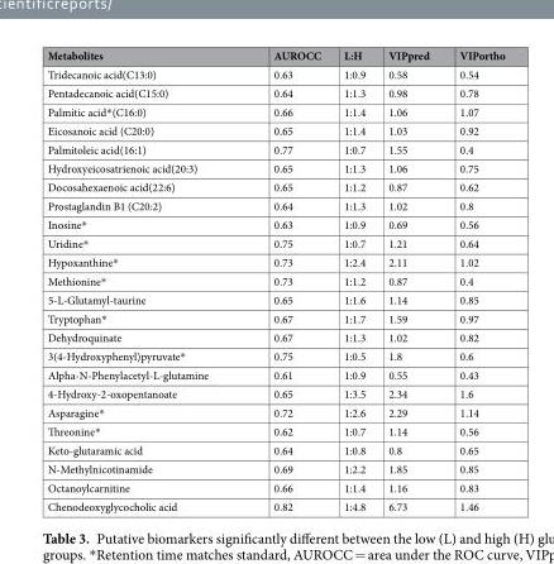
<table><thead><tr><td>Metabolites</td><td>AUROCC</td><td>L:H</td><td>VIPpred</td><td>VIPortho</td></tr></thead><tbody><tr><td>Tridecanoic acid(C13:0)</td><td>0.63</td><td>1:0.9</td><td>0.58</td><td>0.54</td></tr><tr><td>Pentadecanoic acid(C15:0)</td><td>0.64</td><td>1:1.3</td><td>0.98</td><td>0.78</td></tr><tr><td>Palmitic acid*(C16:0)</td><td>0.66</td><td>1:1.4</td><td>1.06</td><td>1.07</td></tr><tr><td>Eicosanoic acid (C20:0)</td><td>0.65</td><td>1:1.4</td><td>1.03</td><td>0.92</td></tr><tr><td>Palmitoleic acid(16:1)</td><td>0.77</td><td>1:0.7</td><td>1.55</td><td>0.4</td></tr><tr><td>Hydroxyeicosatrienoic acid(20:3)</td><td>0.65</td><td>1:1.3</td><td>1.06</td><td>0.75</td></tr><tr><td>Docosahexaenoic acid(22:6)</td><td>0.65</td><td>1:1.2</td><td>0.87</td><td>0.62</td></tr><tr><td>Prostaglandin B1 (C20:2)</td><td>0.64</td><td>1:1.3</td><td>1.02</td><td>0.8</td></tr><tr><td>Inosine*</td><td>0.63</td><td>1:0.9</td><td>0.69</td><td>0.56</td></tr><tr><td>Uridine*</td><td>0.75</td><td>1:0.7</td><td>1.21</td><td>0.64</td></tr><tr><td>Hypoxanthine*</td><td>0.73</td><td>1:2.4</td><td>2.11</td><td>1.02</td></tr><tr><td>Methionine*</td><td>0.73</td><td>1:1.2</td><td>0.87</td><td>0.4</td></tr><tr><td>5-L-Glutamyl-taurine</td><td>0.65</td><td>1:1.6</td><td>1.14</td><td>0.85</td></tr><tr><td>Tryptophan*</td><td>0.67</td><td>1:1.7</td><td>1.59</td><td>0.97</td></tr><tr><td>Dehydroquinate</td><td>0.67</td><td>1:1.3</td><td>1.02</td><td>0.82</td></tr><tr><td>3(4-Hydroxyphenyl)pyruvate*</td><td>0.75</td><td>1:0.5</td><td>1.8</td><td>0.6</td></tr><tr><td>Alpha-N-Phenylacetyl-L-glutamine</td><td>0.61</td><td>1:0.9</td><td>0.55</td><td>0.43</td></tr><tr><td>4-Hydroxy-2-oxopentanoate</td><td>0.65</td><td>1:3.5</td><td>2.34</td><td>1.6</td></tr><tr><td>Asparagine*</td><td>0.72</td><td>1:2.6</td><td>2.29</td><td>1.14</td></tr><tr><td>Threonine*</td><td>0.62</td><td>1:0.7</td><td>1.14</td><td>0.56</td></tr><tr><td>Keto-glutaramic acid</td><td>0.64</td><td>1:0.8</td><td>0.8</td><td>0.65</td></tr><tr><td>N-Methylnicotinamide</td><td>0.69</td><td>1:2.2</td><td>1.85</td><td>0.85</td></tr><tr><td>Octanoylcarnitine</td><td>0.66</td><td>1:1.4</td><td>1.16</td><td>0.83</td></tr><tr><td>Chenodeoxyglycocholic acid</td><td>0.82</td><td>1:4.8</td><td>6.73</td><td>1.46</td></tr></tbody></table>